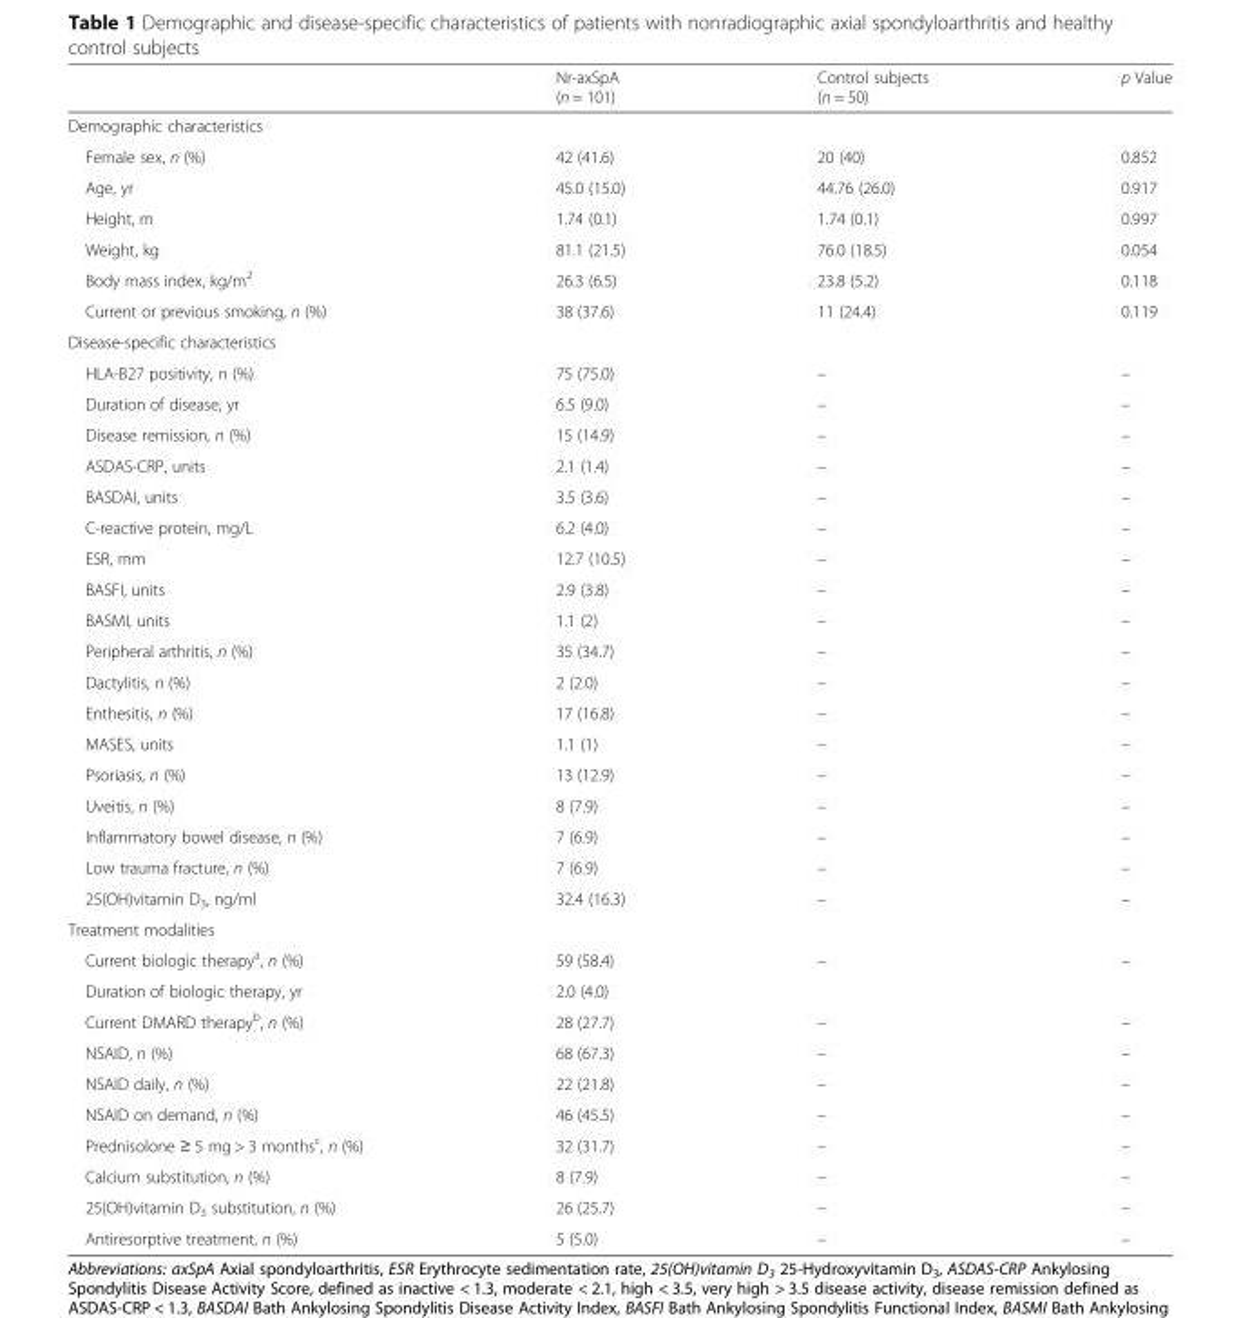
<table><thead><tr><td></td><td>Nr-axSpA (n = 101)</td><td>Control subjects (n = 50)</td><td>p Value</td></tr></thead><tbody><tr><td colspan="4">Demographic characteristics</td></tr><tr><td>Female sex, n (%)</td><td>42 (41.6)</td><td>20 (40)</td><td>0.852</td></tr><tr><td>Age, yr</td><td>45.0 (15.0)</td><td>44.76 (26.0)</td><td>0.917</td></tr><tr><td>Height, m</td><td>1.74 (0.1)</td><td>1.74 (0.1)</td><td>0.997</td></tr><tr><td>Weight, kg</td><td>81.1 (21.5)</td><td>76.0 (18.5)</td><td>0.054</td></tr><tr><td>Body mass index, kg/m<sup>2</sup></td><td>26.3 (6.5)</td><td>23.8 (5.2)</td><td>0.118</td></tr><tr><td>Current or previous smoking, n (%)</td><td>38 (37.6)</td><td>11 (24.4)</td><td>0.119</td></tr><tr><td colspan="4">Disease-specific characteristics</td></tr><tr><td>HLA-B27 positivity, n (%)</td><td>75 (75.0)</td><td>–</td><td>–</td></tr><tr><td>Duration of disease, yr</td><td>6.5 (9.0)</td><td>–</td><td>–</td></tr><tr><td>Disease remission, n (%)</td><td>15 (14.9)</td><td>–</td><td>–</td></tr><tr><td>ASDAS-CRP, units</td><td>2.1 (1.4)</td><td>–</td><td>–</td></tr><tr><td>BASDAI, units</td><td>3.5 (3.6)</td><td>–</td><td>–</td></tr><tr><td>C-reactive protein, mg/L</td><td>6.2 (4.0)</td><td>–</td><td>–</td></tr><tr><td>ESR, mm</td><td>12.7 (10.5)</td><td>–</td><td>–</td></tr><tr><td>BASFI, units</td><td>2.9 (3.8)</td><td>–</td><td>–</td></tr><tr><td>BASMI, units</td><td>1.1 (2)</td><td>–</td><td>–</td></tr><tr><td>Peripheral arthritis, n (%)</td><td>35 (34.7)</td><td>–</td><td>–</td></tr><tr><td>Dactylitis, n (%)</td><td>2 (2.0)</td><td>–</td><td>–</td></tr><tr><td>Enthesitis, n (%)</td><td>17 (16.8)</td><td>–</td><td>–</td></tr><tr><td>MASES, units</td><td>1.1 (1)</td><td>–</td><td>–</td></tr><tr><td>Psoriasis, n (%)</td><td>13 (12.9)</td><td>–</td><td>–</td></tr><tr><td>Uveitis, n (%)</td><td>8 (7.9)</td><td>–</td><td>–</td></tr><tr><td>Inflammatory bowel disease, n (%)</td><td>7 (6.9)</td><td>–</td><td>–</td></tr><tr><td>Low trauma fracture, n (%)</td><td>7 (6.9)</td><td>–</td><td>–</td></tr><tr><td>25(OH)vitamin D<sub>3</sub>, ng/ml</td><td>32.4 (16.3)</td><td>–</td><td>–</td></tr><tr><td colspan="4">Treatment modalities</td></tr><tr><td>Current biologic therapy<sup>a</sup>, n (%)</td><td>59 (58.4)</td><td>–</td><td>–</td></tr><tr><td>Duration of biologic therapy, yr</td><td>2.0 (4.0)</td><td></td><td></td></tr><tr><td>Current DMARD therapy<sup>b</sup>, n (%)</td><td>28 (27.7)</td><td>–</td><td>–</td></tr><tr><td>NSAID, n (%)</td><td>68 (67.3)</td><td>–</td><td>–</td></tr><tr><td>NSAID daily, n (%)</td><td>22 (21.8)</td><td>–</td><td>–</td></tr><tr><td>NSAID on demand, n (%)</td><td>46 (45.5)</td><td>–</td><td>–</td></tr><tr><td>Prednisolone ≥ 5 mg &gt; 3 months<sup>c</sup>, n (%)</td><td>32 (31.7)</td><td>–</td><td>–</td></tr><tr><td>Calcium substitution, n (%)</td><td>8 (7.9)</td><td>–</td><td>–</td></tr><tr><td>25(OH)vitamin D<sub>3</sub> substitution, n (%)</td><td>26 (25.7)</td><td>–</td><td>–</td></tr><tr><td>Antiresorptive treatment, n (%)</td><td>5 (5.0)</td><td>–</td><td>–</td></tr></tbody></table>